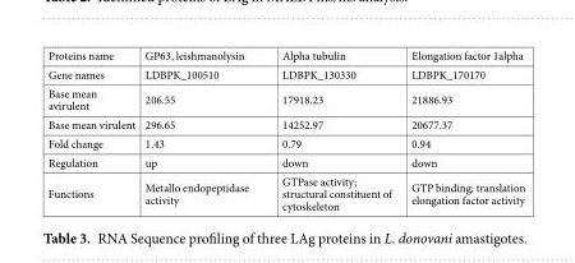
<table><tbody><tr><td>Proteins name</td><td>GP63, leishmanolysin</td><td>Alpha tubulin</td><td>Elongation factor 1alpha</td></tr><tr><td>Gene names</td><td>LDBPK_100510</td><td>LDBPK_130330</td><td>LDBPK_170170</td></tr><tr><td>Base mean avirulent</td><td>206.55</td><td>17918.23</td><td>21886.93</td></tr><tr><td>Base mean virulent</td><td>296.65</td><td>14252.97</td><td>20677.37</td></tr><tr><td>Fold change</td><td>1.43</td><td>0.79</td><td>0.94</td></tr><tr><td>Regulation</td><td>up</td><td>down</td><td>down</td></tr><tr><td>Functions</td><td>Metallo endopeptidase activity</td><td>GTPase activity; structural constituent of cytoskeleton</td><td>GTP binding; translation elongation factor activity</td></tr></tbody></table>